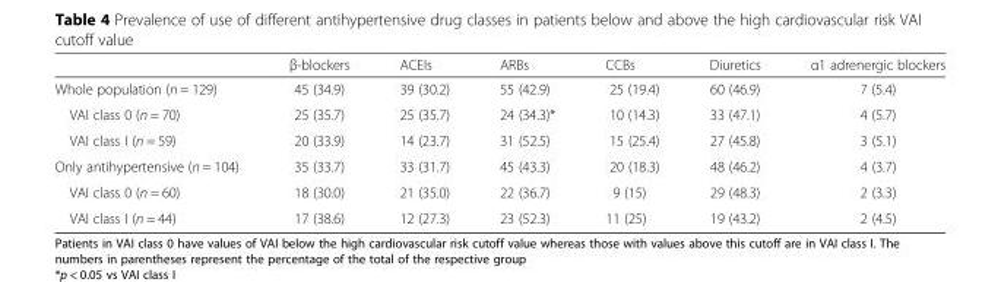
<table><thead><tr><td></td><td>β-blockers</td><td>ACEIs</td><td>ARBs</td><td>CCBs</td><td>Diuretics</td><td>α1 adrenergic blockers</td></tr></thead><tbody><tr><td>Whole population (n = 129)</td><td>45 (34.9)</td><td>39 (30.2)</td><td>55 (42.9)</td><td>25 (19.4)</td><td>60 (46.9)</td><td>7 (5.4)</td></tr><tr><td>VAI class 0 (n = 70)</td><td>25 (35.7)</td><td>25 (35.7)</td><td>24 (34.3)*</td><td>10 (14.3)</td><td>33 (47.1)</td><td>4 (5.7)</td></tr><tr><td>VAI class I (n = 59)</td><td>20 (33.9)</td><td>14 (23.7)</td><td>31 (52.5)</td><td>15 (25.4)</td><td>27 (45.8)</td><td>3 (5.1)</td></tr><tr><td>Only antihypertensive (n = 104)</td><td>35 (33.7)</td><td>33 (31.7)</td><td>45 (43.3)</td><td>20 (18.3)</td><td>48 (46.2)</td><td>4 (3.7)</td></tr><tr><td>VAI class 0 (n = 60)</td><td>18 (30.0)</td><td>21 (35.0)</td><td>22 (36.7)</td><td>9 (15)</td><td>29 (48.3)</td><td>2 (3.3)</td></tr><tr><td>VAI class I (n = 44)</td><td>17 (38.6)</td><td>12 (27.3)</td><td>23 (52.3)</td><td>11 (25)</td><td>19 (43.2)</td><td>2 (4.5)</td></tr></tbody></table>